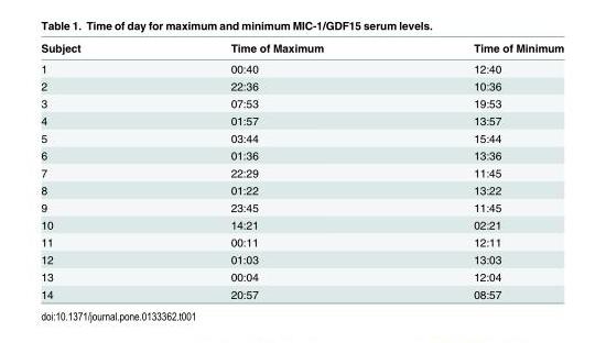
<table><thead><tr><td>Subject</td><td>Time of Maximum</td><td>Time of Minimum</td></tr></thead><tbody><tr><td>1</td><td>00:40</td><td>12:40</td></tr><tr><td>2</td><td>22:36</td><td>10:36</td></tr><tr><td>3</td><td>07:53</td><td>19:53</td></tr><tr><td>4</td><td>01:57</td><td>13:57</td></tr><tr><td>5</td><td>03:44</td><td>15:44</td></tr><tr><td>6</td><td>01:36</td><td>13:36</td></tr><tr><td>7</td><td>22:29</td><td>11:45</td></tr><tr><td>8</td><td>01:22</td><td>13:22</td></tr><tr><td>9</td><td>23:45</td><td>11:45</td></tr><tr><td>10</td><td>14:21</td><td>02:21</td></tr><tr><td>11</td><td>00:11</td><td>12:11</td></tr><tr><td>12</td><td>01:03</td><td>13:03</td></tr><tr><td>13</td><td>00:04</td><td>12:04</td></tr><tr><td>14</td><td>20:57</td><td>08:57</td></tr></tbody></table>